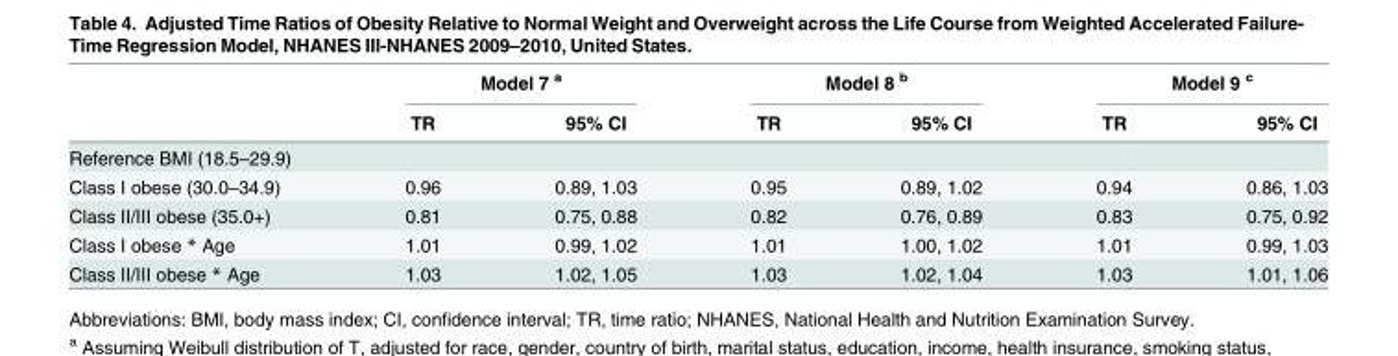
<table><thead><tr><td rowspan="2"></td><td colspan="2">Model 7 <sup>a</sup></td><td colspan="2">Model 8 <sup>b</sup></td><td colspan="2">Model 9 <sup>c</sup></td></tr><tr><td>TR</td><td>95% CI</td><td>TR</td><td>95% CI</td><td>TR</td><td>95% CI</td></tr></thead><tbody><tr><td colspan="7">Reference BMI (18.5–29.9)</td></tr><tr><td>Class I obese (30.0–34.9)</td><td>0.96</td><td>0.89, 1.03</td><td>0.95</td><td>0.89, 1.02</td><td>0.94</td><td>0.86, 1.03</td></tr><tr><td>Class II/III obese (35.0+)</td><td>0.81</td><td>0.75, 0.88</td><td>0.82</td><td>0.76, 0.89</td><td>0.83</td><td>0.75, 0.92</td></tr><tr><td>Class I obese * Age</td><td>1.01</td><td>0.99, 1.02</td><td>1.01</td><td>1.00, 1.02</td><td>1.01</td><td>0.99, 1.03</td></tr><tr><td>Class II/III obese * Age</td><td>1.03</td><td>1.02, 1.05</td><td>1.03</td><td>1.02, 1.04</td><td>1.03</td><td>1.01, 1.06</td></tr></tbody></table>